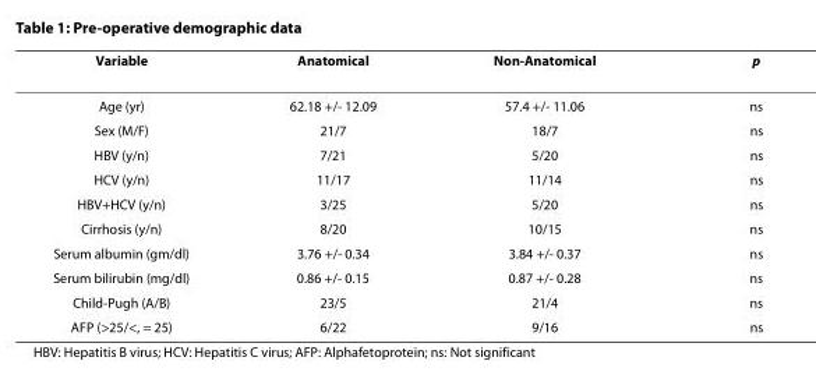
<table><thead><tr><td>Variable</td><td>Anatomical</td><td>Non-Anatomical</td><td>p</td></tr></thead><tbody><tr><td>Age (yr)</td><td>62.18 +/- 12.09</td><td>57.4 +/- 11.06</td><td>ns</td></tr><tr><td>Sex (M/F)</td><td>21/7</td><td>18/7</td><td>ns</td></tr><tr><td>HBV (y/n)</td><td>7/21</td><td>5/20</td><td>ns</td></tr><tr><td>HCV (y/n)</td><td>11/17</td><td>11/14</td><td>ns</td></tr><tr><td>HBV+HCV (y/n)</td><td>3/25</td><td>5/20</td><td>ns</td></tr><tr><td>Cirrhosis (y/n)</td><td>8/20</td><td>10/15</td><td>ns</td></tr><tr><td>Serum albumin (gm/dl)</td><td>3.76 +/- 0.34</td><td>3.84 +/- 0.37</td><td>ns</td></tr><tr><td>Serum bilirubin (mg/dl)</td><td>0.86 +/- 0.15</td><td>0.87 +/- 0.28</td><td>ns</td></tr><tr><td>Child-Pugh (A/B)</td><td>23/5</td><td>21/4</td><td>ns</td></tr><tr><td>AFP (&gt;25/&lt;, = 25)</td><td>6/22</td><td>9/16</td><td>ns</td></tr></tbody></table>